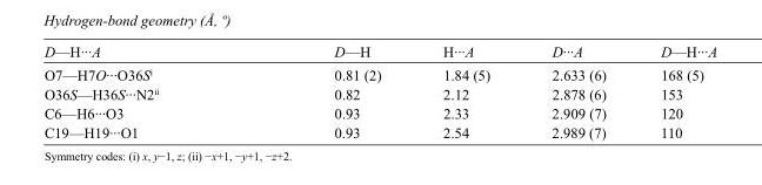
<table><tbody><tr><td>D—H···A</td><td>D—H</td><td>H···A</td><td>D···A</td><td>D—H···A</td></tr><tr><td>O7—H7O···O36S<sup>i</sup></td><td>0.81 (2)</td><td>1.84 (5)</td><td>2.633 (6)</td><td>168 (5)</td></tr><tr><td>O36S—H36S···N2<sup>ii</sup></td><td>0.82</td><td>2.12</td><td>2.878 (6)</td><td>153</td></tr><tr><td>C6—H6···O3</td><td>0.93</td><td>2.33</td><td>2.909 (7)</td><td>120</td></tr><tr><td>C19—H19···O1</td><td>0.93</td><td>2.54</td><td>2.989 (7)</td><td>110</td></tr></tbody></table>